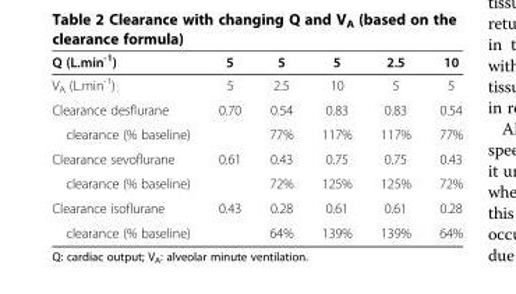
<table><thead><tr><td>Q (L.min<sup>-1</sup>)</td><td>5</td><td>5</td><td>5</td><td>2.5</td><td>10</td></tr></thead><tbody><tr><td>V<sub>A</sub> (L.min<sup>-1</sup>)</td><td>5</td><td>2.5</td><td>10</td><td>5</td><td>5</td></tr><tr><td>Clearance desflurane</td><td>0.70</td><td>0.54</td><td>0.83</td><td>0.83</td><td>0.54</td></tr><tr><td>clearance (% baseline)</td><td></td><td>77%</td><td>117%</td><td>117%</td><td>77%</td></tr><tr><td>Clearance sevoflurane</td><td>0.61</td><td>0.43</td><td>0.75</td><td>0.75</td><td>0.43</td></tr><tr><td>clearance (% baseline)</td><td></td><td>72%</td><td>125%</td><td>125%</td><td>72%</td></tr><tr><td>Clearance isoflurane</td><td>0.43</td><td>0.28</td><td>0.61</td><td>0.61</td><td>0.28</td></tr><tr><td>clearance (% baseline)</td><td></td><td>64%</td><td>139%</td><td>139%</td><td>64%</td></tr></tbody></table>